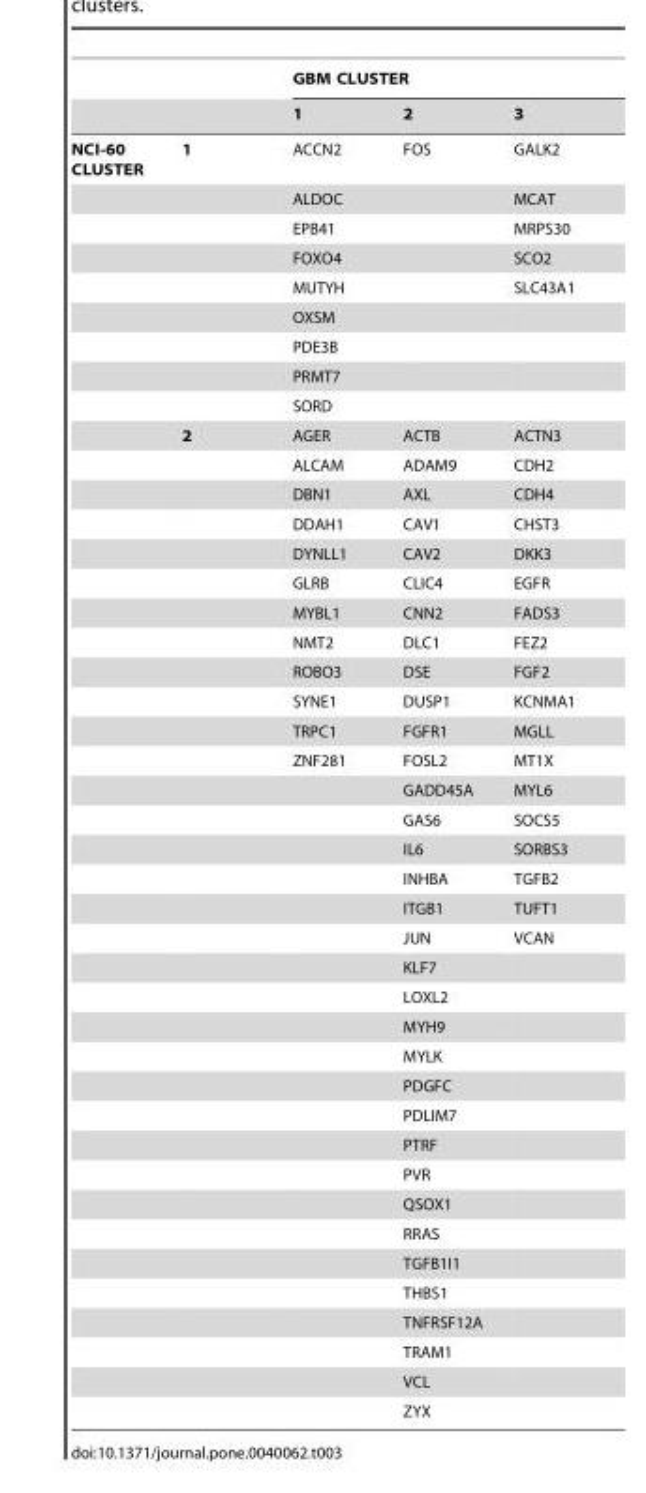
<table><thead><tr><td rowspan="2"></td><td rowspan="2"></td><td colspan="3">GBM CLUSTER</td></tr><tr><td>1</td><td>2</td><td>3</td></tr></thead><tbody><tr><td rowspan="43">NCI-60 CLUSTER</td><td>1</td><td>ACCN2</td><td>FOS</td><td>GALK2</td></tr><tr><td></td><td>ALDOC</td><td></td><td>MCAT</td></tr><tr><td></td><td>EPB41</td><td></td><td>MRPS30</td></tr><tr><td></td><td>FOXO4</td><td></td><td>SCO2</td></tr><tr><td></td><td>MUTYH</td><td></td><td>SLC43A1</td></tr><tr><td></td><td>OXSM</td><td></td><td></td></tr><tr><td></td><td>PDE3B</td><td></td><td></td></tr><tr><td></td><td>PRMT7</td><td></td><td></td></tr><tr><td></td><td>SORD</td><td></td><td></td></tr><tr><td>2</td><td>AGER</td><td>ACTB</td><td>ACTN3</td></tr><tr><td></td><td>ALCAM</td><td>ADAM9</td><td>CDH2</td></tr><tr><td></td><td>DBN1</td><td>AXL</td><td>CDH4</td></tr><tr><td></td><td>DDAH1</td><td>CAV1</td><td>CHST3</td></tr><tr><td></td><td>DYNLL1</td><td>CAV2</td><td>DKK3</td></tr><tr><td></td><td>GLRB</td><td>CLIC4</td><td>EGFR</td></tr><tr><td></td><td>MYBL1</td><td>CNN2</td><td>FADS3</td></tr><tr><td></td><td>NMT2</td><td>DLC1</td><td>FEZ2</td></tr><tr><td></td><td>ROBO3</td><td>DSE</td><td>FGF2</td></tr><tr><td></td><td>SYNE1</td><td>DUSP1</td><td>KCNMA1</td></tr><tr><td></td><td>TRPC1</td><td>FGFR1</td><td>MGLL</td></tr><tr><td></td><td>ZNF281</td><td>FOSL2</td><td>MT1X</td></tr><tr><td></td><td></td><td>GADD45A</td><td>MYL6</td></tr><tr><td></td><td></td><td>GAS6</td><td>SOCS5</td></tr><tr><td></td><td></td><td>IL6</td><td>SORBS3</td></tr><tr><td></td><td></td><td>INHBA</td><td>TGFB2</td></tr><tr><td></td><td></td><td>ITGB1</td><td>TUFT1</td></tr><tr><td></td><td></td><td>JUN</td><td>VCAN</td></tr><tr><td></td><td></td><td>KLF7</td><td></td></tr><tr><td></td><td></td><td>LOXL2</td><td></td></tr><tr><td></td><td></td><td>MYH9</td><td></td></tr><tr><td></td><td></td><td>MYLK</td><td></td></tr><tr><td></td><td></td><td>PDGFC</td><td></td></tr><tr><td></td><td></td><td>PDLIM7</td><td></td></tr><tr><td></td><td></td><td>PTRF</td><td></td></tr><tr><td></td><td></td><td>PVR</td><td></td></tr><tr><td></td><td></td><td>QSOX1</td><td></td></tr><tr><td></td><td></td><td>RRAS</td><td></td></tr><tr><td></td><td></td><td>TGFB1I1</td><td></td></tr><tr><td></td><td></td><td>THBS1</td><td></td></tr><tr><td></td><td></td><td>TNFRSF12A</td><td></td></tr><tr><td></td><td></td><td>TRAM1</td><td></td></tr><tr><td></td><td></td><td>VCL</td><td></td></tr><tr><td></td><td></td><td>ZYX</td><td></td></tr></tbody></table>